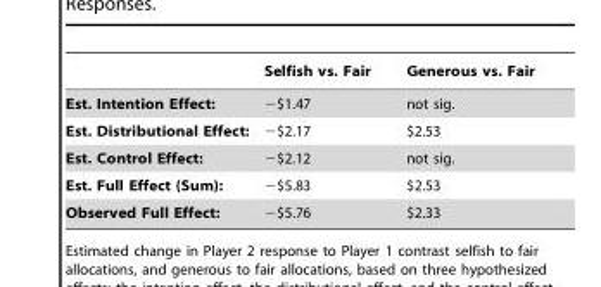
<table><thead><tr><td></td><td>Selfish vs. Fair</td><td>Generous vs. Fair</td></tr></thead><tbody><tr><td>Est. Intention Effect:</td><td>−$1.47</td><td>not sig.</td></tr><tr><td>Est. Distributional Effect:</td><td>−$2.17</td><td>$2.53</td></tr><tr><td>Est. Control Effect:</td><td>−$2.12</td><td>not sig.</td></tr><tr><td>Est. Full Effect (Sum):</td><td>−$5.83</td><td>$2.53</td></tr><tr><td>Observed Full Effect:</td><td>−$5.76</td><td>$2.33</td></tr></tbody></table>